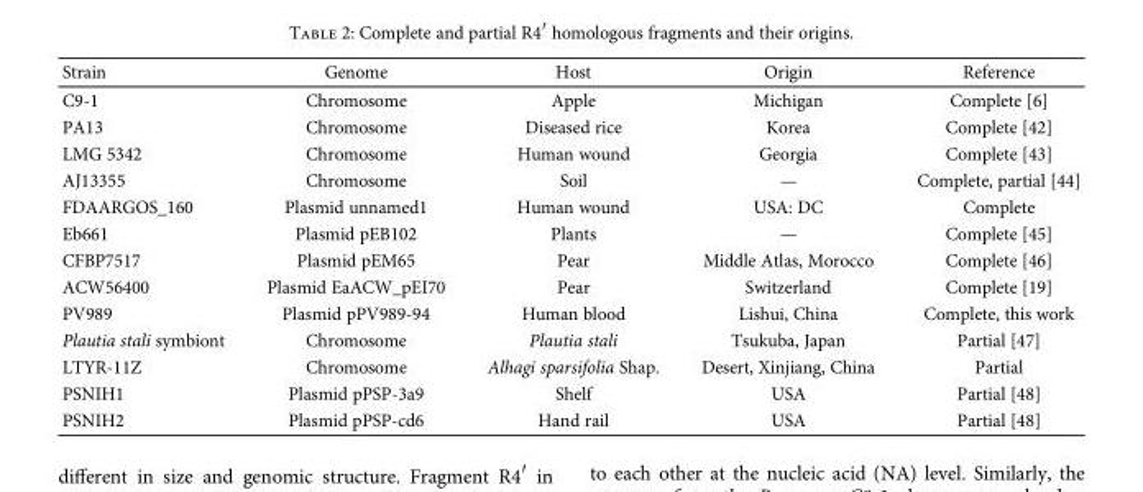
<table><tbody><tr><td>Strain</td><td>Genome</td><td>Host</td><td>Origin</td><td>Reference</td></tr><tr><td>C9-1</td><td>Chromosome</td><td>Apple</td><td>Michigan</td><td>Complete [6]</td></tr><tr><td>PA13</td><td>Chromosome</td><td>Diseased rice</td><td>Korea</td><td>Complete [42]</td></tr><tr><td>LMG 5342</td><td>Chromosome</td><td>Human wound</td><td>Georgia</td><td>Complete [43]</td></tr><tr><td>AJ13355</td><td>Chromosome</td><td>Soil</td><td>—</td><td>Complete, partial [44]</td></tr><tr><td>FDAARGOS_160</td><td>Plasmid unnamed1</td><td>Human wound</td><td>USA: DC</td><td>Complete</td></tr><tr><td>Eb661</td><td>Plasmid pEB102</td><td>Plants</td><td>—</td><td>Complete [45]</td></tr><tr><td>CFBP7517</td><td>Plasmid pEM65</td><td>Pear</td><td>Middle Atlas, Morocco</td><td>Complete [46]</td></tr><tr><td>ACW56400</td><td>Plasmid EaACW_pEI70</td><td>Pear</td><td>Switzerland</td><td>Complete [19]</td></tr><tr><td>PV989</td><td>Plasmid pPV989-94</td><td>Human blood</td><td>Lishui, China</td><td>Complete, this work</td></tr><tr><td>Plautia stali symbiont</td><td>Chromosome</td><td>Plautia stali</td><td>Tsukuba, Japan</td><td>Partial [47]</td></tr><tr><td>LTYR-11Z</td><td>Chromosome</td><td>Alhagi sparsifolia Shap.</td><td>Desert, Xinjiang, China</td><td>Partial</td></tr><tr><td>PSNIH1</td><td>Plasmid pPSP-3a9</td><td>Shelf</td><td>USA</td><td>Partial [48]</td></tr><tr><td>PSNIH2</td><td>Plasmid pPSP-cd6</td><td>Hand rail</td><td>USA</td><td>Partial [48]</td></tr></tbody></table>